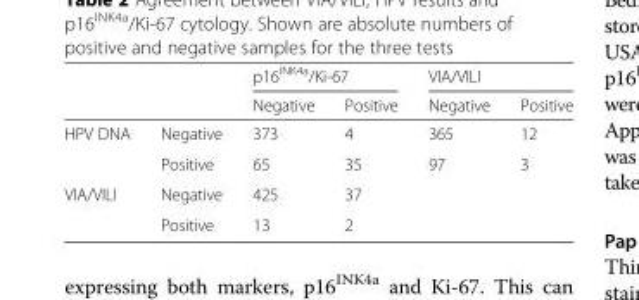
<table><thead><tr><td rowspan="2"></td><td rowspan="2"></td><td colspan="2">p16<sup>INK4a</sup>/Ki-67</td><td colspan="2">VIA/VILI</td></tr><tr><td>Negative</td><td>Positive</td><td>Negative</td><td>Positive</td></tr></thead><tbody><tr><td rowspan="2">HPV DNA</td><td>Negative</td><td>373</td><td>4</td><td>365</td><td>12</td></tr><tr><td>Positive</td><td>65</td><td>35</td><td>97</td><td>3</td></tr><tr><td rowspan="2">VIA/VILI</td><td>Negative</td><td>425</td><td>37</td><td></td><td></td></tr><tr><td>Positive</td><td>13</td><td>2</td><td></td><td></td></tr></tbody></table>